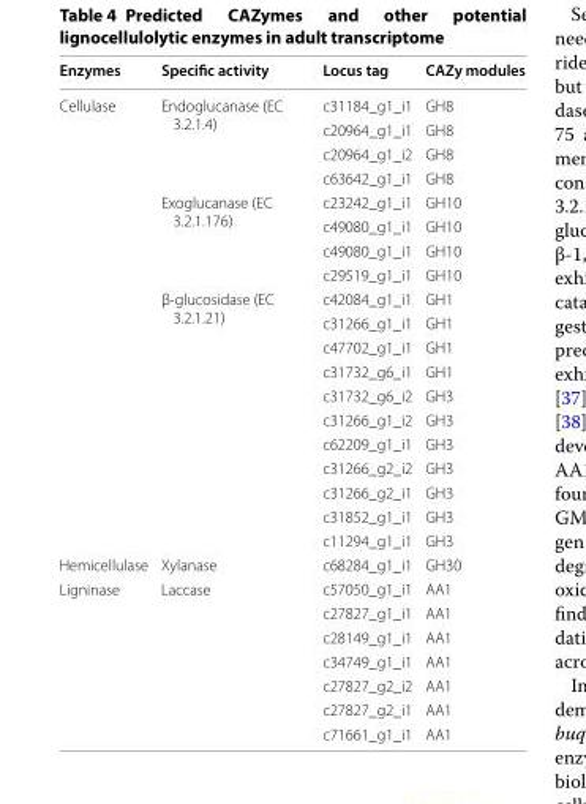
<table><thead><tr><td>Enzymes</td><td>Specific activity</td><td>Locus tag</td><td>CAZy modules</td></tr></thead><tbody><tr><td rowspan="19">Cellulase</td><td rowspan="4">Endoglucanase (EC 3.2.1.4)</td><td>c31184_g1_i1</td><td>GH8</td></tr><tr><td>c20964_g1_i1</td><td>GH8</td></tr><tr><td>c20964_g1_i2</td><td>GH8</td></tr><tr><td>c63642_g1_i1</td><td>GH8</td></tr><tr><td rowspan="4">Exoglucanase (EC 3.2.1.176)</td><td>c23242_g1_i1</td><td>GH10</td></tr><tr><td>c49080_g1_i1</td><td>GH10</td></tr><tr><td>c49080_g1_i1</td><td>GH10</td></tr><tr><td>c29519_g1_i1</td><td>GH10</td></tr><tr><td rowspan="11">β-glucosidase (EC 3.2.1.21)</td><td>c42084_g1_i1</td><td>GH1</td></tr><tr><td>c31266_g1_i1</td><td>GH1</td></tr><tr><td>c47702_g1_i1</td><td>GH1</td></tr><tr><td>c31732_g6_i1</td><td>GH1</td></tr><tr><td>c31732_g6_i2</td><td>GH3</td></tr><tr><td>c31266_g1_i2</td><td>GH3</td></tr><tr><td>c62209_g1_i1</td><td>GH3</td></tr><tr><td>c31266_g2_i2</td><td>GH3</td></tr><tr><td>c31266_g2_i1</td><td>GH3</td></tr><tr><td>c31852_g1_i1</td><td>GH3</td></tr><tr><td>c11294_g1_i1</td><td>GH3</td></tr><tr><td>Hemicellulase</td><td>Xylanase</td><td>c68284_g1_i1</td><td>GH30</td></tr><tr><td rowspan="7">Ligninase</td><td rowspan="7">Laccase</td><td>c57050_g1_i1</td><td>AA1</td></tr><tr><td>c27827_g1_i1</td><td>AA1</td></tr><tr><td>c28149_g1_i1</td><td>AA1</td></tr><tr><td>c34749_g1_i1</td><td>AA1</td></tr><tr><td>c27827_g2_i2</td><td>AA1</td></tr><tr><td>c27827_g2_i1</td><td>AA1</td></tr><tr><td>c71661_g1_i1</td><td>AA1</td></tr></tbody></table>